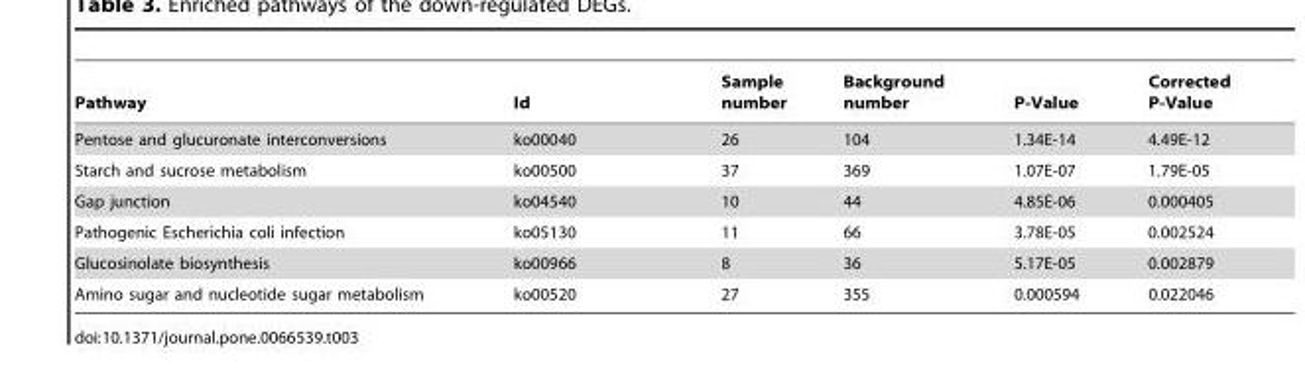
<table><thead><tr><td>Pathway</td><td>Id</td><td>Sample number</td><td>Background number</td><td>P-Value</td><td>Corrected P-Value</td></tr></thead><tbody><tr><td>Pentose and glucuronate interconversions</td><td>ko00040</td><td>26</td><td>104</td><td>1.34E-14</td><td>4.49E-12</td></tr><tr><td>Starch and sucrose metabolism</td><td>ko00500</td><td>37</td><td>369</td><td>1.07E-07</td><td>1.79E-05</td></tr><tr><td>Gap junction</td><td>ko04540</td><td>10</td><td>44</td><td>4.85E-06</td><td>0.000405</td></tr><tr><td>Pathogenic Escherichia coli infection</td><td>ko05130</td><td>11</td><td>66</td><td>3.78E-05</td><td>0.002524</td></tr><tr><td>Glucosinolate biosynthesis</td><td>ko00966</td><td>8</td><td>36</td><td>5.17E-05</td><td>0.002879</td></tr><tr><td>Amino sugar and nucleotide sugar metabolism</td><td>ko00520</td><td>27</td><td>355</td><td>0.000594</td><td>0.022046</td></tr></tbody></table>